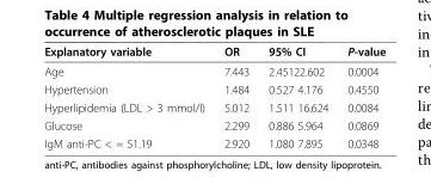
<table><thead><tr><td>Explanatory variable</td><td>OR</td><td>95% CI</td><td>P-value</td></tr></thead><tbody><tr><td>Age</td><td>7.443</td><td>2.45122.602</td><td>0.0004</td></tr><tr><td>Hypertension</td><td>1.484</td><td>0.527 4.176</td><td>0.4550</td></tr><tr><td>Hyperlipidemia (LDL &gt; 3 mmol/l)</td><td>5.012</td><td>1.511 16.624</td><td>0.0084</td></tr><tr><td>Glucose</td><td>2.299</td><td>0.886 5.964</td><td>0.0869</td></tr><tr><td>IgM anti-PC &lt; = 51.19</td><td>2.920</td><td>1.080 7.895</td><td>0.0348</td></tr></tbody></table>